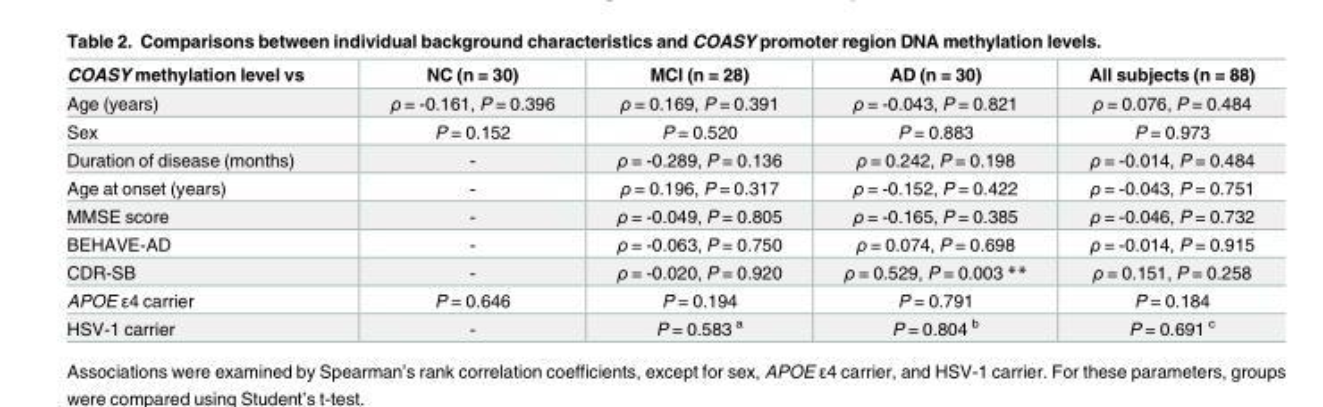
<table><thead><tr><td>COASY methylation level vs</td><td>NC (n = 30)</td><td>MCI (n = 28)</td><td>AD (n = 30)</td><td>All subjects (n = 88)</td></tr></thead><tbody><tr><td>Age (years)</td><td>ρ = -0.161, P = 0.396</td><td>ρ = 0.169, P = 0.391</td><td>ρ = -0.043, P = 0.821</td><td>ρ = 0.076, P = 0.484</td></tr><tr><td>Sex</td><td>P = 0.152</td><td>P = 0.520</td><td>P = 0.883</td><td>P = 0.973</td></tr><tr><td>Duration of disease (months)</td><td>-</td><td>ρ = -0.289, P = 0.136</td><td>ρ = 0.242, P = 0.198</td><td>ρ = -0.014, P = 0.484</td></tr><tr><td>Age at onset (years)</td><td>-</td><td>ρ = 0.196, P = 0.317</td><td>ρ = -0.152, P = 0.422</td><td>ρ = -0.043, P = 0.751</td></tr><tr><td>MMSE score</td><td>-</td><td>ρ = -0.049, P = 0.805</td><td>ρ = -0.165, P = 0.385</td><td>ρ = -0.046, P = 0.732</td></tr><tr><td>BEHAVE-AD</td><td>-</td><td>ρ = -0.063, P = 0.750</td><td>ρ = 0.074, P = 0.698</td><td>ρ = -0.014, P = 0.915</td></tr><tr><td>CDR-SB</td><td>-</td><td>ρ = -0.020, P = 0.920</td><td>ρ = 0.529, P = 0.003 **</td><td>ρ = 0.151, P = 0.258</td></tr><tr><td>APOE ε4 carrier</td><td>P = 0.646</td><td>P = 0.194</td><td>P = 0.791</td><td>P = 0.184</td></tr><tr><td>HSV-1 carrier</td><td>-</td><td>P = 0.583 <sup>a</sup></td><td>P = 0.804 <sup>b</sup></td><td>P = 0.691 <sup>c</sup></td></tr></tbody></table>